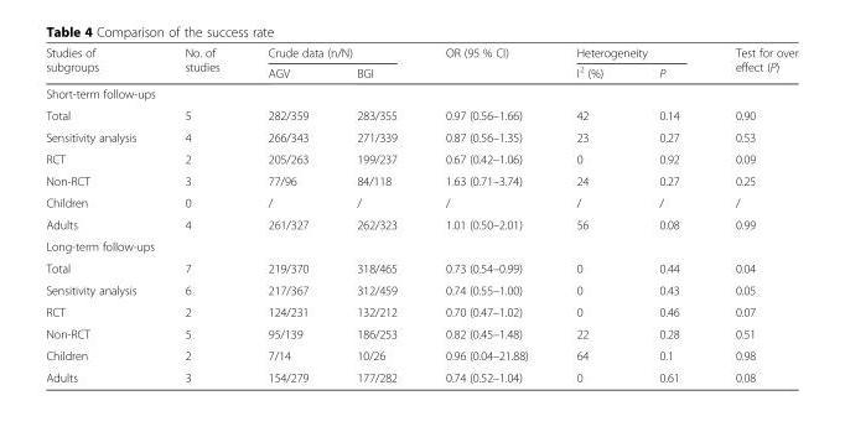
<table><thead><tr><td rowspan="2">Studies of subgroups</td><td rowspan="2">No. of studies</td><td colspan="2">Crude data (n/N)</td><td rowspan="2">OR (95 % CI)</td><td colspan="2">Heterogeneity</td><td rowspan="2">Test for over effect (P)</td></tr><tr><td>AGV</td><td>BGI</td><td>I<sup>2</sup> (%)</td><td>P</td></tr></thead><tbody><tr><td colspan="8">Short-term follow-ups</td></tr><tr><td>Total</td><td>5</td><td>282/359</td><td>283/355</td><td>0.97 (0.56–1.66)</td><td>42</td><td>0.14</td><td>0.90</td></tr><tr><td>Sensitivity analysis</td><td>4</td><td>266/343</td><td>271/339</td><td>0.87 (0.56–1.35)</td><td>23</td><td>0.27</td><td>0.53</td></tr><tr><td>RCT</td><td>2</td><td>205/263</td><td>199/237</td><td>0.67 (0.42–1.06)</td><td>0</td><td>0.92</td><td>0.09</td></tr><tr><td>Non-RCT</td><td>3</td><td>77/96</td><td>84/118</td><td>1.63 (0.71–3.74)</td><td>24</td><td>0.27</td><td>0.25</td></tr><tr><td>Children</td><td>0</td><td>/</td><td>/</td><td>/</td><td>/</td><td>/</td><td>/</td></tr><tr><td>Adults</td><td>4</td><td>261/327</td><td>262/323</td><td>1.01 (0.50–2.01)</td><td>56</td><td>0.08</td><td>0.99</td></tr><tr><td colspan="8">Long-term follow-ups</td></tr><tr><td>Total</td><td>7</td><td>219/370</td><td>318/465</td><td>0.73 (0.54–0.99)</td><td>0</td><td>0.44</td><td>0.04</td></tr><tr><td>Sensitivity analysis</td><td>6</td><td>217/367</td><td>312/459</td><td>0.74 (0.55–1.00)</td><td>0</td><td>0.43</td><td>0.05</td></tr><tr><td>RCT</td><td>2</td><td>124/231</td><td>132/212</td><td>0.70 (0.47–1.02)</td><td>0</td><td>0.46</td><td>0.07</td></tr><tr><td>Non-RCT</td><td>5</td><td>95/139</td><td>186/253</td><td>0.82 (0.45–1.48)</td><td>22</td><td>0.28</td><td>0.51</td></tr><tr><td>Children</td><td>2</td><td>7/14</td><td>10/26</td><td>0.96 (0.04–21.88)</td><td>64</td><td>0.1</td><td>0.98</td></tr><tr><td>Adults</td><td>3</td><td>154/279</td><td>177/282</td><td>0.74 (0.52–1.04)</td><td>0</td><td>0.61</td><td>0.08</td></tr></tbody></table>